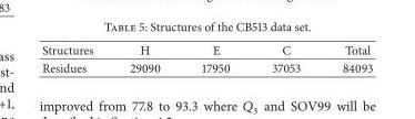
<table><thead><tr><td>Structures</td><td>H</td><td>E</td><td>C</td><td>Total</td></tr></thead><tbody><tr><td>Residues</td><td>29090</td><td>17950</td><td>37053</td><td>84093</td></tr></tbody></table>